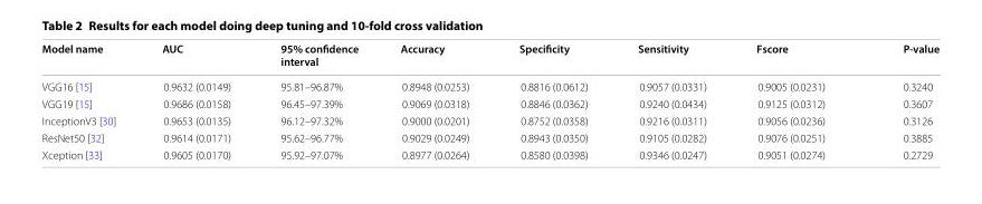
<table><thead><tr><td>Model name</td><td>AUC</td><td>95% confidence interval</td><td>Accuracy</td><td>Specificity</td><td>Sensitivity</td><td>Fscore</td><td>P‑value</td></tr></thead><tbody><tr><td>VGG16 [15]</td><td>0.9632 (0.0149)</td><td>95.81–96.87%</td><td>0.8948 (0.0253)</td><td>0.8816 (0.0612)</td><td>0.9057 (0.0331)</td><td>0.9005 (0.0231)</td><td>0.3240</td></tr><tr><td>VGG19 [15]</td><td>0.9686 (0.0158)</td><td>96.45–97.39%</td><td>0.9069 (0.0318)</td><td>0.8846 (0.0362)</td><td>0.9240 (0.0434)</td><td>0.9125 (0.0312)</td><td>0.3607</td></tr><tr><td>InceptionV3 [30]</td><td>0.9653 (0.0135)</td><td>96.12–97.32%</td><td>0.9000 (0.0201)</td><td>0.8752 (0.0358)</td><td>0.9216 (0.0311)</td><td>0.9056 (0.0236)</td><td>0.3126</td></tr><tr><td>ResNet50 [32]</td><td>0.9614 (0.0171)</td><td>95.62–96.77%</td><td>0.9029 (0.0249)</td><td>0.8943 (0.0350)</td><td>0.9105 (0.0282)</td><td>0.9076 (0.0251)</td><td>0.3885</td></tr><tr><td>Xception [33]</td><td>0.9605 (0.0170)</td><td>95.92–97.07%</td><td>0.8977 (0.0264)</td><td>0.8580 (0.0398)</td><td>0.9346 (0.0247)</td><td>0.9051 (0.0274)</td><td>0.2729</td></tr></tbody></table>